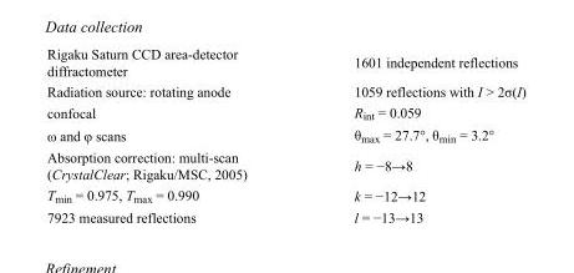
<table><tbody><tr><td>Rigaku Saturn CCD area-detector diffractometer</td><td>1601 independent reflections</td></tr><tr><td>Radiation source: rotating anode</td><td>1059 reflections with I &gt; 2σ(I)</td></tr><tr><td>confocal</td><td>R<sub>int</sub> = 0.059</td></tr><tr><td>ω and φ scans</td><td>θ<sub>max</sub> = 27.7°, θ<sub>min</sub> = 3.2°</td></tr><tr><td>Absorption correction: multi-scan (CrystalClear; Rigaku/MSC, 2005)</td><td>h = −8→8</td></tr><tr><td>T<sub>min</sub> = 0.975, T<sub>max</sub> = 0.990</td><td>k = −12→12</td></tr><tr><td>7923 measured reflections</td><td>l = −13→13</td></tr></tbody></table>